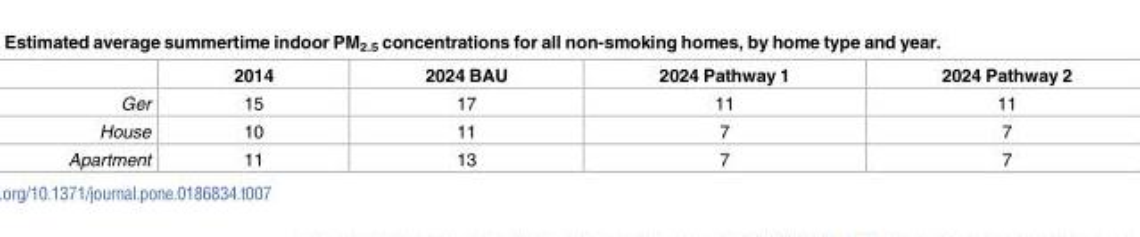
<table><thead><tr><td></td><td>2014</td><td>2024 BAU</td><td>2024 Pathway 1</td><td>2024 Pathway 2</td></tr></thead><tbody><tr><td>Ger</td><td>15</td><td>17</td><td>11</td><td>11</td></tr><tr><td>House</td><td>10</td><td>11</td><td>7</td><td>7</td></tr><tr><td>Apartment</td><td>11</td><td>13</td><td>7</td><td>7</td></tr></tbody></table>